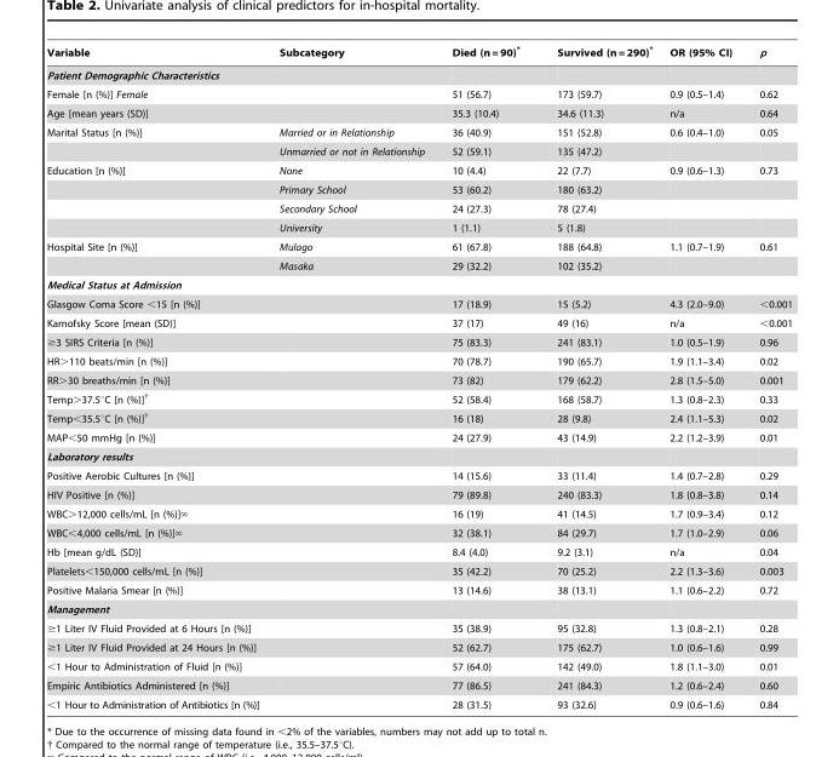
<table><thead><tr><td>Variable</td><td>Subcategory</td><td>Died (n = 90)*</td><td>Survived (n = 290)*</td><td>OR (95% CI)</td><td>p</td></tr></thead><tbody><tr><td colspan="6">Patient Demographic Characteristics</td></tr><tr><td>Female [n (%)] Female</td><td></td><td>51 (56.7)</td><td>173 (59.7)</td><td>0.9 (0.5–1.4)</td><td>0.62</td></tr><tr><td>Age [mean years (SD)]</td><td></td><td>35.3 (10.4)</td><td>34.6 (11.3)</td><td>n/a</td><td>0.64</td></tr><tr><td rowspan="2">Marital Status [n (%)]</td><td>Married or in Relationship</td><td>36 (40.9)</td><td>151 (52.8)</td><td>0.6 (0.4–1.0)</td><td>0.05</td></tr><tr><td>Unmarried or not in Relationship</td><td>52 (59.1)</td><td>135 (47.2)</td><td></td><td></td></tr><tr><td rowspan="4">Education [n (%)]</td><td>None</td><td>10 (4.4)</td><td>22 (7.7)</td><td>0.9 (0.6–1.3)</td><td>0.73</td></tr><tr><td>Primary School</td><td>53 (60.2)</td><td>180 (63.2)</td><td></td><td></td></tr><tr><td>Secondary School</td><td>24 (27.3)</td><td>78 (27.4)</td><td></td><td></td></tr><tr><td>University</td><td>1 (1.1)</td><td>5 (1.8)</td><td></td><td></td></tr><tr><td rowspan="2">Hospital Site [n (%)]</td><td>Mulago</td><td>61 (67.8)</td><td>188 (64.8)</td><td>1.1 (0.7–1.9)</td><td>0.61</td></tr><tr><td>Masaka</td><td>29 (32.2)</td><td>102 (35.2)</td><td></td><td></td></tr><tr><td colspan="6">Medical Status at Admission</td></tr><tr><td>Glasgow Coma Score &lt;15 [n (%)]</td><td></td><td>17 (18.9)</td><td>15 (5.2)</td><td>4.3 (2.0–9.0)</td><td>&lt;0.001</td></tr><tr><td>Karnofsky Score [mean (SD)]</td><td></td><td>37 (17)</td><td>49 (16)</td><td>n/a</td><td>&lt;0.001</td></tr><tr><td>≥3 SIRS Criteria [n (%)]</td><td></td><td>75 (83.3)</td><td>241 (83.1)</td><td>1.0 (0.5–1.9)</td><td>0.96</td></tr><tr><td>HR&gt;110 beats/min [n (%)]</td><td></td><td>70 (78.7)</td><td>190 (65.7)</td><td>1.9 (1.1–3.4)</td><td>0.02</td></tr><tr><td>RR&gt;30 breaths/min [n (%)]</td><td></td><td>73 (82)</td><td>179 (62.2)</td><td>2.8 (1.5–5.0)</td><td>0.001</td></tr><tr><td>Temp&gt;37.5°C [n (%)]†</td><td></td><td>52 (58.4)</td><td>168 (58.7)</td><td>1.3 (0.8–2.3)</td><td>0.33</td></tr><tr><td>Temp&lt;35.5°C [n (%)]†</td><td></td><td>16 (18)</td><td>28 (9.8)</td><td>2.4 (1.1–5.3)</td><td>0.02</td></tr><tr><td>MAP&lt;50 mmHg [n (%)]</td><td></td><td>24 (27.9)</td><td>43 (14.9)</td><td>2.2 (1.2–3.9)</td><td>0.01</td></tr><tr><td colspan="6">Laboratory results</td></tr><tr><td>Positive Aerobic Cultures [n (%)]</td><td></td><td>14 (15.6)</td><td>33 (11.4)</td><td>1.4 (0.7–2.8)</td><td>0.29</td></tr><tr><td>HIV Positive [n (%)]</td><td></td><td>79 (89.8)</td><td>240 (83.3)</td><td>1.8 (0.8–3.8)</td><td>0.14</td></tr><tr><td>WBC.12,000 cells/mL [n (%)]‘</td><td></td><td>16 (19)</td><td>41 (14.5)</td><td>1.7 (0.9–3.4)</td><td>0.12</td></tr><tr><td>WBC,4,000 cells/mL [n (%)]‘</td><td></td><td>32 (38.1)</td><td>84 (29.7)</td><td>1.7 (1.0–2.9)</td><td>0.06</td></tr><tr><td>Hb [mean g/dL (SD)]</td><td></td><td>8.4 (4.0)</td><td>9.2 (3.1)</td><td>n/a</td><td>0.04</td></tr><tr><td>Platelets&lt;150,000 cells/mL [n (%)]</td><td></td><td>35 (42.2)</td><td>70 (25.2)</td><td>2.2 (1.3–3.6)</td><td>0.003</td></tr><tr><td>Positive Malaria Smear [n (%)]</td><td></td><td>13 (14.6)</td><td>38 (13.1)</td><td>1.1 (0.6–2.2)</td><td>0.72</td></tr><tr><td colspan="6">Management</td></tr><tr><td>≥1 Liter IV Fluid Provided at 6 Hours [n (%)]</td><td></td><td>35 (38.9)</td><td>95 (32.8)</td><td>1.3 (0.8–2.1)</td><td>0.28</td></tr><tr><td>≥1 Liter IV Fluid Provided at 24 Hours [n (%)]</td><td></td><td>52 (62.7)</td><td>175 (62.7)</td><td>1.0 (0.6–1.6)</td><td>0.99</td></tr><tr><td>&lt;1 Hour to Administration of Fluid [n (%)]</td><td></td><td>57 (64.0)</td><td>142 (49.0)</td><td>1.8 (1.1–3.0)</td><td>0.01</td></tr><tr><td>Empiric Antibiotics Administered [n (%)]</td><td></td><td>77 (86.5)</td><td>241 (84.3)</td><td>1.2 (0.6–2.4)</td><td>0.60</td></tr><tr><td>&lt;1 Hour to Administration of Antibiotics [n (%)]</td><td></td><td>28 (31.5)</td><td>93 (32.6)</td><td>0.9 (0.6–1.6)</td><td>0.84</td></tr></tbody></table>